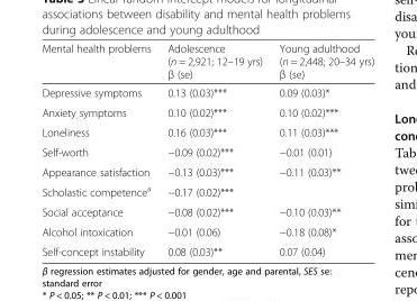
<table><thead><tr><td>Mental health problems</td><td>Adolescence (n = 2,921; 12–19 yrs) β (se)</td><td>Young adulthood (n = 2,448; 20–34 yrs) β (se)</td></tr></thead><tbody><tr><td>Depressive symptoms</td><td>0.13 (0.03)***</td><td>0.09 (0.03)*</td></tr><tr><td>Anxiety symptoms</td><td>0.10 (0.02)***</td><td>0.10 (0.02)***</td></tr><tr><td>Loneliness</td><td>0.16 (0.03)***</td><td>0.11 (0.03)***</td></tr><tr><td>Self-worth</td><td>−0.09 (0.02)***</td><td>−0.01 (0.01)</td></tr><tr><td>Appearance satisfaction</td><td>−0.13 (0.03)***</td><td>−0.11 (0.03)**</td></tr><tr><td>Scholastic competence<sup>a</sup></td><td>−0.17 (0.02)***</td><td></td></tr><tr><td>Social acceptance</td><td>−0.08 (0.02)***</td><td>−0.10 (0.03)**</td></tr><tr><td>Alcohol intoxication</td><td>−0.01 (0.06)</td><td>−0.18 (0.08)*</td></tr><tr><td>Self-concept instability</td><td>0.08 (0.03)**</td><td>0.07 (0.04)</td></tr></tbody></table>